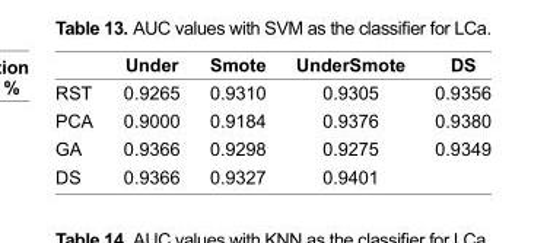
<table><thead><tr><td></td><td>Under</td><td>Smote</td><td>UnderSmote</td><td>DS</td></tr></thead><tbody><tr><td>RST</td><td>0.9265</td><td>0.9310</td><td>0.9305</td><td>0.9356</td></tr><tr><td>PCA</td><td>0.9000</td><td>0.9184</td><td>0.9376</td><td>0.9380</td></tr><tr><td>GA</td><td>0.9366</td><td>0.9298</td><td>0.9275</td><td>0.9349</td></tr><tr><td>DS</td><td>0.9366</td><td>0.9327</td><td>0.9401</td><td></td></tr></tbody></table>